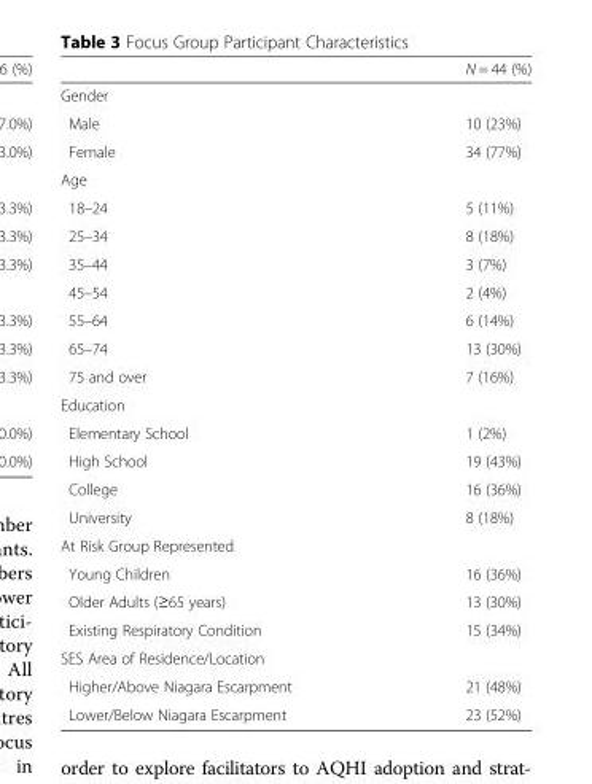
<table><thead><tr><td></td><td>N = 44 (%)</td></tr></thead><tbody><tr><td colspan="2">Gender</td></tr><tr><td>Male</td><td>10 (23%)</td></tr><tr><td>Female</td><td>34 (77%)</td></tr><tr><td colspan="2">Age</td></tr><tr><td>18–24</td><td>5 (11%)</td></tr><tr><td>25–34</td><td>8 (18%)</td></tr><tr><td>35–44</td><td>3 (7%)</td></tr><tr><td>45–54</td><td>2 (4%)</td></tr><tr><td>55–64</td><td>6 (14%)</td></tr><tr><td>65–74</td><td>13 (30%)</td></tr><tr><td>75 and over</td><td>7 (16%)</td></tr><tr><td colspan="2">Education</td></tr><tr><td>Elementary School</td><td>1 (2%)</td></tr><tr><td>High School</td><td>19 (43%)</td></tr><tr><td>College</td><td>16 (36%)</td></tr><tr><td>University</td><td>8 (18%)</td></tr><tr><td colspan="2">At Risk Group Represented</td></tr><tr><td>Young Children</td><td>16 (36%)</td></tr><tr><td>Older Adults (≥65 years)</td><td>13 (30%)</td></tr><tr><td>Existing Respiratory Condition</td><td>15 (34%)</td></tr><tr><td colspan="2">SES Area of Residence/Location</td></tr><tr><td>Higher/Above Niagara Escarpment</td><td>21 (48%)</td></tr><tr><td>Lower/Below Niagara Escarpment</td><td>23 (52%)</td></tr></tbody></table>